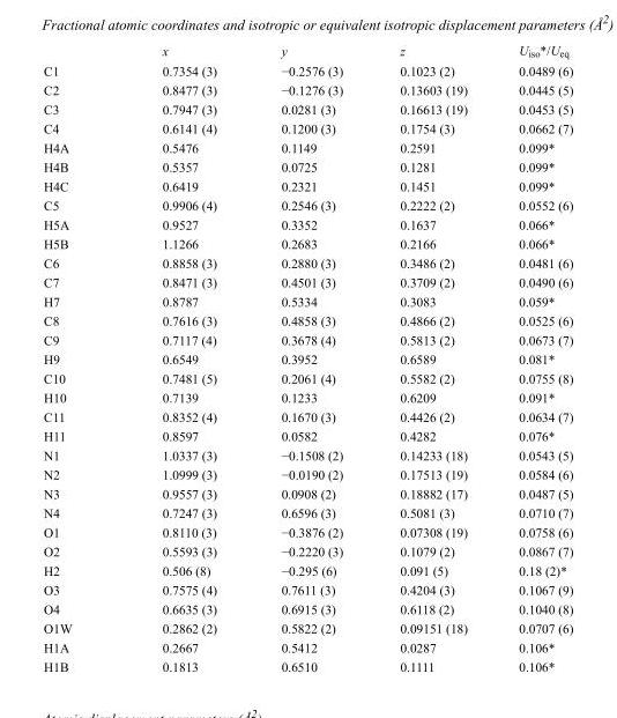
<table><thead><tr><td></td><td>x</td><td>y</td><td>z</td><td>U<sub>iso</sub>*/U<sub>eq</sub></td></tr></thead><tbody><tr><td>C1</td><td>0.7354 (3)</td><td>−0.2576 (3)</td><td>0.1023 (2)</td><td>0.0489 (6)</td></tr><tr><td>C2</td><td>0.8477 (3)</td><td>−0.1276 (3)</td><td>0.13603 (19)</td><td>0.0445 (5)</td></tr><tr><td>C3</td><td>0.7947 (3)</td><td>0.0281 (3)</td><td>0.16613 (19)</td><td>0.0453 (5)</td></tr><tr><td>C4</td><td>0.6141 (4)</td><td>0.1200 (3)</td><td>0.1754 (3)</td><td>0.0662 (7)</td></tr><tr><td>H4A</td><td>0.5476</td><td>0.1149</td><td>0.2591</td><td>0.099*</td></tr><tr><td>H4B</td><td>0.5357</td><td>0.0725</td><td>0.1281</td><td>0.099*</td></tr><tr><td>H4C</td><td>0.6419</td><td>0.2321</td><td>0.1451</td><td>0.099*</td></tr><tr><td>C5</td><td>0.9906 (4)</td><td>0.2546 (3)</td><td>0.2222 (2)</td><td>0.0552 (6)</td></tr><tr><td>H5A</td><td>0.9527</td><td>0.3352</td><td>0.1637</td><td>0.066*</td></tr><tr><td>H5B</td><td>1.1266</td><td>0.2683</td><td>0.2166</td><td>0.066*</td></tr><tr><td>C6</td><td>0.8858 (3)</td><td>0.2880 (3)</td><td>0.3486 (2)</td><td>0.0481 (6)</td></tr><tr><td>C7</td><td>0.8471 (3)</td><td>0.4501 (3)</td><td>0.3709 (2)</td><td>0.0490 (6)</td></tr><tr><td>H7</td><td>0.8787</td><td>0.5334</td><td>0.3083</td><td>0.059*</td></tr><tr><td>C8</td><td>0.7616 (3)</td><td>0.4858 (3)</td><td>0.4866 (2)</td><td>0.0525 (6)</td></tr><tr><td>C9</td><td>0.7117 (4)</td><td>0.3678 (4)</td><td>0.5813 (2)</td><td>0.0673 (7)</td></tr><tr><td>H9</td><td>0.6549</td><td>0.3952</td><td>0.6589</td><td>0.081*</td></tr><tr><td>C10</td><td>0.7481 (5)</td><td>0.2061 (4)</td><td>0.5582 (2)</td><td>0.0755 (8)</td></tr><tr><td>H10</td><td>0.7139</td><td>0.1233</td><td>0.6209</td><td>0.091*</td></tr><tr><td>C11</td><td>0.8352 (4)</td><td>0.1670 (3)</td><td>0.4426 (2)</td><td>0.0634 (7)</td></tr><tr><td>H11</td><td>0.8597</td><td>0.0582</td><td>0.4282</td><td>0.076*</td></tr><tr><td>N1</td><td>1.0337 (3)</td><td>−0.1508 (2)</td><td>0.14233 (18)</td><td>0.0543 (5)</td></tr><tr><td>N2</td><td>1.0999 (3)</td><td>−0.0190 (2)</td><td>0.17513 (19)</td><td>0.0584 (6)</td></tr><tr><td>N3</td><td>0.9557 (3)</td><td>0.0908 (2)</td><td>0.18882 (17)</td><td>0.0487 (5)</td></tr><tr><td>N4</td><td>0.7247 (3)</td><td>0.6596 (3)</td><td>0.5081 (3)</td><td>0.0710 (7)</td></tr><tr><td>O1</td><td>0.8110 (3)</td><td>−0.3876 (2)</td><td>0.07308 (19)</td><td>0.0758 (6)</td></tr><tr><td>O2</td><td>0.5593 (3)</td><td>−0.2220 (3)</td><td>0.1079 (2)</td><td>0.0867 (7)</td></tr><tr><td>H2</td><td>0.506 (8)</td><td>−0.295 (6)</td><td>0.091 (5)</td><td>0.18 (2)*</td></tr><tr><td>O3</td><td>0.7575 (4)</td><td>0.7611 (3)</td><td>0.4204 (3)</td><td>0.1067 (9)</td></tr><tr><td>O4</td><td>0.6635 (3)</td><td>0.6915 (3)</td><td>0.6118 (2)</td><td>0.1040 (8)</td></tr><tr><td>O1W</td><td>0.2862 (2)</td><td>0.5822 (2)</td><td>0.09151 (18)</td><td>0.0707 (6)</td></tr><tr><td>H1A</td><td>0.2667</td><td>0.5412</td><td>0.0287</td><td>0.106*</td></tr><tr><td>H1B</td><td>0.1813</td><td>0.6510</td><td>0.1111</td><td>0.106*</td></tr></tbody></table>